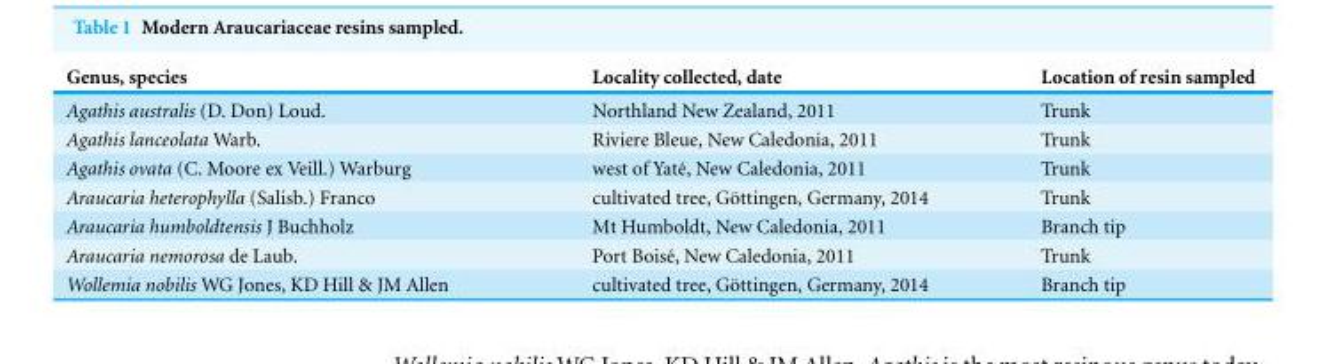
<table><thead><tr><td>Genus, species</td><td>Locality collected, date</td><td>Location of resin sampled</td></tr></thead><tbody><tr><td>Agathis australis (D. Don) Loud.</td><td>Northland New Zealand, 2011</td><td>Trunk</td></tr><tr><td>Agathis lanceolata Warb.</td><td>Riviere Bleue, New Caledonia, 2011</td><td>Trunk</td></tr><tr><td>Agathis ovata (C. Moore ex Veill.) Warburg</td><td>west of Yat´e, New Caledonia, 2011</td><td>Trunk</td></tr><tr><td>Araucaria heterophylla (Salisb.) Franco</td><td>cultivated tree, G¨ottingen, Germany, 2014</td><td>Trunk</td></tr><tr><td>Araucaria humboldtensis J Buchholz</td><td>Mt Humboldt, New Caledonia, 2011</td><td>Branch tip</td></tr><tr><td>Araucaria nemorosa de Laub.</td><td>Port Bois´e, New Caledonia, 2011</td><td>Trunk</td></tr><tr><td>Wollemia nobilis WG Jones, KD Hill &amp; JM Allen</td><td>cultivated tree, G¨ottingen, Germany, 2014</td><td>Branch tip</td></tr></tbody></table>